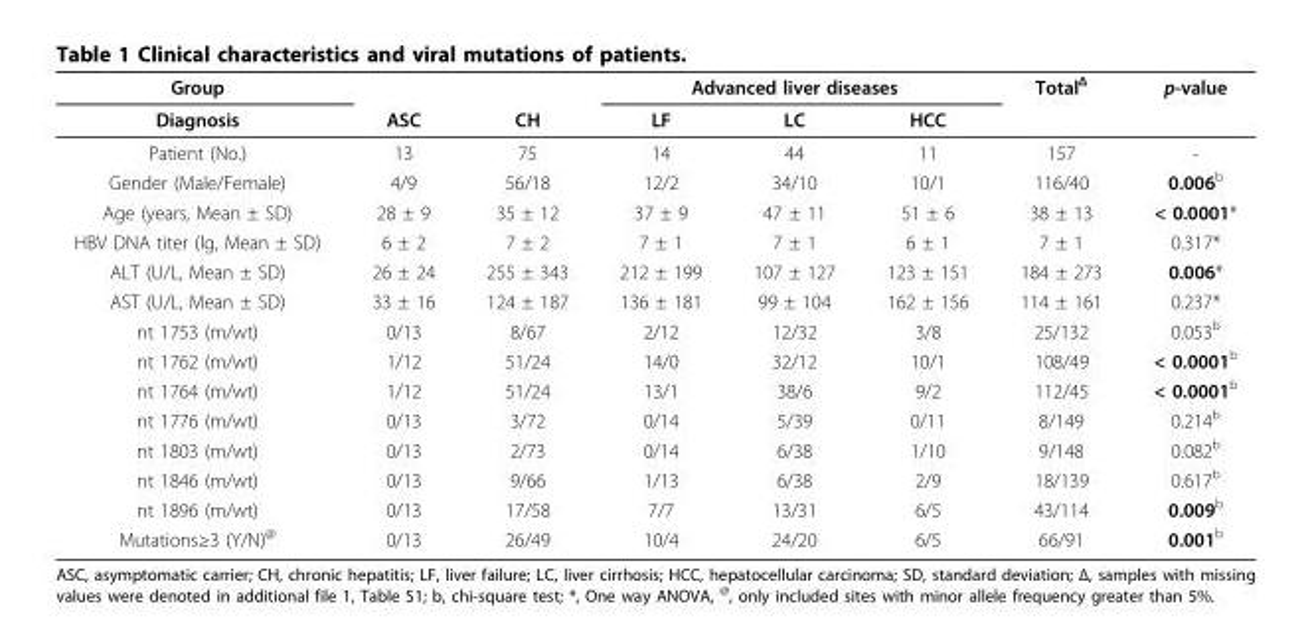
<table><tbody><tr><td>Group</td><td></td><td></td><td colspan="3">Advanced liver diseases</td><td>Total<sup>Δ</sup></td><td>p-value</td></tr><tr><td>Diagnosis</td><td>ASC</td><td>CH</td><td>LF</td><td>LC</td><td>HCC</td><td></td><td></td></tr><tr><td>Patient (No.)</td><td>13</td><td>75</td><td>14</td><td>44</td><td>11</td><td>157</td><td>-</td></tr><tr><td>Gender (Male/Female)</td><td>4/9</td><td>56/18</td><td>12/2</td><td>34/10</td><td>10/1</td><td>116/40</td><td>0.006<sup>b</sup></td></tr><tr><td>Age (years, Mean ± SD)</td><td>28 ± 9</td><td>35 ± 12</td><td>37 ± 9</td><td>47 ± 11</td><td>51 ± 6</td><td>38 ± 13</td><td>&lt; 0.0001*</td></tr><tr><td>HBV DNA titer (lg, Mean ± SD)</td><td>6 ± 2</td><td>7 ± 2</td><td>7 ± 1</td><td>7 ± 1</td><td>6 ± 1</td><td>7 ± 1</td><td>0.317*</td></tr><tr><td>ALT (U/L, Mean ± SD)</td><td>26 ± 24</td><td>255 ± 343</td><td>212 ± 199</td><td>107 ± 127</td><td>123 ± 151</td><td>184 ± 273</td><td>0.006*</td></tr><tr><td>AST (U/L, Mean ± SD)</td><td>33 ± 16</td><td>124 ± 187</td><td>136 ± 181</td><td>99 ± 104</td><td>162 ± 156</td><td>114 ± 161</td><td>0.237*</td></tr><tr><td>nt 1753 (m/wt)</td><td>0/13</td><td>8/67</td><td>2/12</td><td>12/32</td><td>3/8</td><td>25/132</td><td>0.053<sup>b</sup></td></tr><tr><td>nt 1762 (m/wt)</td><td>1/12</td><td>51/24</td><td>14/0</td><td>32/12</td><td>10/1</td><td>108/49</td><td>&lt; 0.0001<sup>b</sup></td></tr><tr><td>nt 1764 (m/wt)</td><td>1/12</td><td>51/24</td><td>13/1</td><td>38/6</td><td>9/2</td><td>112/45</td><td>&lt; 0.0001<sup>b</sup></td></tr><tr><td>nt 1776 (m/wt)</td><td>0/13</td><td>3/72</td><td>0/14</td><td>5/39</td><td>0/11</td><td>8/149</td><td>0.214<sup>b</sup></td></tr><tr><td>nt 1803 (m/wt)</td><td>0/13</td><td>2/73</td><td>0/14</td><td>6/38</td><td>1/10</td><td>9/148</td><td>0.082<sup>b</sup></td></tr><tr><td>nt 1846 (m/wt)</td><td>0/13</td><td>9/66</td><td>1/13</td><td>6/38</td><td>2/9</td><td>18/139</td><td>0.617<sup>b</sup></td></tr><tr><td>nt 1896 (m/wt)</td><td>0/13</td><td>17/58</td><td>7/7</td><td>13/31</td><td>6/5</td><td>43/114</td><td>0.009<sup>b</sup></td></tr><tr><td>Mutations≥3 (Y/N)<sup>@</sup></td><td>0/13</td><td>26/49</td><td>10/4</td><td>24/20</td><td>6/5</td><td>66/91</td><td>0.001<sup>b</sup></td></tr></tbody></table>